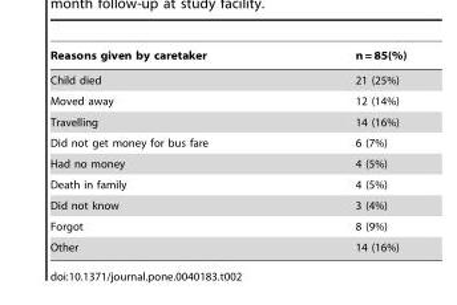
<table><thead><tr><td>Reasons given by caretaker</td><td>n = 85(%)</td></tr></thead><tbody><tr><td>Child died</td><td>21 (25%)</td></tr><tr><td>Moved away</td><td>12 (14%)</td></tr><tr><td>Travelling</td><td>14 (16%)</td></tr><tr><td>Did not get money for bus fare</td><td>6 (7%)</td></tr><tr><td>Had no money</td><td>4 (5%)</td></tr><tr><td>Death in family</td><td>4 (5%)</td></tr><tr><td>Did not know</td><td>3 (4%)</td></tr><tr><td>Forgot</td><td>8 (9%)</td></tr><tr><td>Other</td><td>14 (16%)</td></tr></tbody></table>